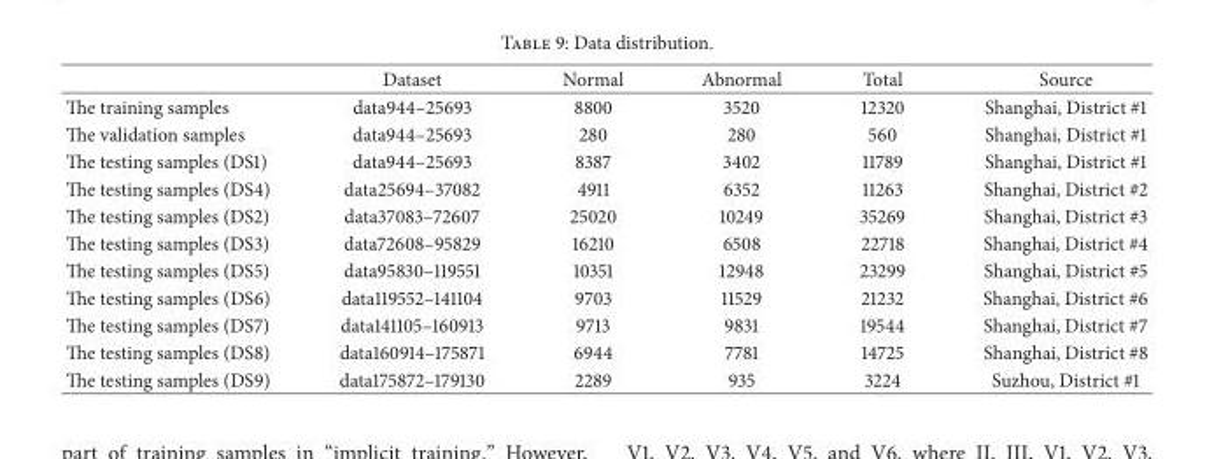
<table><thead><tr><td></td><td>Dataset</td><td>Normal</td><td>Abnormal</td><td>Total</td><td>Source</td></tr></thead><tbody><tr><td>The training samples</td><td>data944–25693</td><td>8800</td><td>3520</td><td>12320</td><td>Shanghai, District #1</td></tr><tr><td>The validation samples</td><td>data944–25693</td><td>280</td><td>280</td><td>560</td><td>Shanghai, District #1</td></tr><tr><td>The testing samples (DS1)</td><td>data944–25693</td><td>8387</td><td>3402</td><td>11789</td><td>Shanghai, District #1</td></tr><tr><td>The testing samples (DS4)</td><td>data25694–37082</td><td>4911</td><td>6352</td><td>11263</td><td>Shanghai, District #2</td></tr><tr><td>The testing samples (DS2)</td><td>data37083–72607</td><td>25020</td><td>10249</td><td>35269</td><td>Shanghai, District #3</td></tr><tr><td>The testing samples (DS3)</td><td>data72608–95829</td><td>16210</td><td>6508</td><td>22718</td><td>Shanghai, District #4</td></tr><tr><td>The testing samples (DS5)</td><td>data95830–119551</td><td>10351</td><td>12948</td><td>23299</td><td>Shanghai, District #5</td></tr><tr><td>The testing samples (DS6)</td><td>data119552–141104</td><td>9703</td><td>11529</td><td>21232</td><td>Shanghai, District #6</td></tr><tr><td>The testing samples (DS7)</td><td>data141105–160913</td><td>9713</td><td>9831</td><td>19544</td><td>Shanghai, District #7</td></tr><tr><td>The testing samples (DS8)</td><td>data160914–175871</td><td>6944</td><td>7781</td><td>14725</td><td>Shanghai, District #8</td></tr><tr><td>The testing samples (DS9)</td><td>data175872–179130</td><td>2289</td><td>935</td><td>3224</td><td>Suzhou, District #1</td></tr></tbody></table>